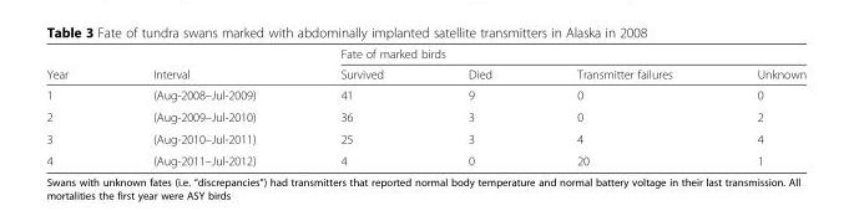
<table><thead><tr><td rowspan="2">Year</td><td rowspan="2">Interval</td><td colspan="4">Fate of marked birds</td></tr><tr><td>Survived</td><td>Died</td><td>Transmitter failures</td><td>Unknown</td></tr></thead><tbody><tr><td>1</td><td>(Aug-2008–Jul-2009)</td><td>41</td><td>9</td><td>0</td><td>0</td></tr><tr><td>2</td><td>(Aug-2009–Jul-2010)</td><td>36</td><td>3</td><td>0</td><td>2</td></tr><tr><td>3</td><td>(Aug-2010–Jul-2011)</td><td>25</td><td>3</td><td>4</td><td>4</td></tr><tr><td>4</td><td>(Aug-2011–Jul-2012)</td><td>4</td><td>0</td><td>20</td><td>1</td></tr></tbody></table>